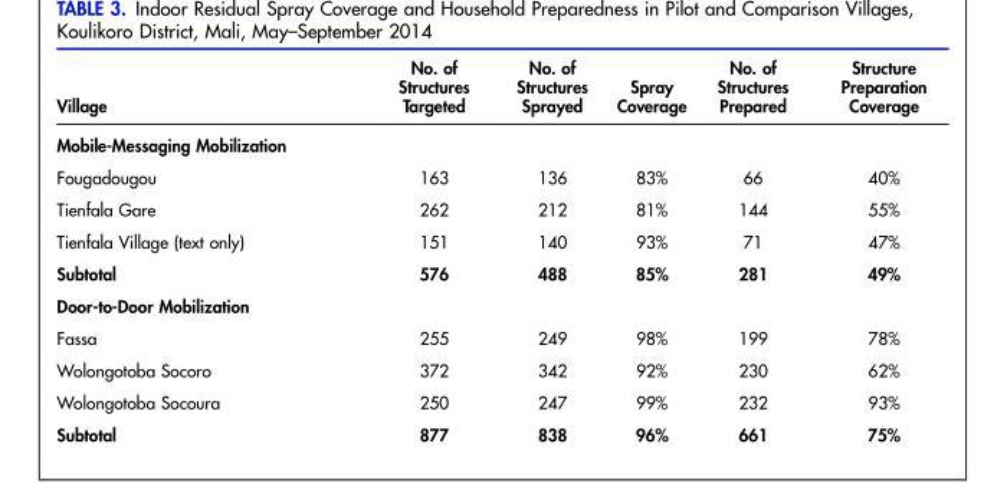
<table><thead><tr><td>Village</td><td>No. of Structures Targeted</td><td>No. of Structures Sprayed</td><td>Spray Coverage</td><td>No. of Structures Prepared</td><td>Structure Preparation Coverage</td></tr></thead><tbody><tr><td colspan="6">Mobile-Messaging Mobilization</td></tr><tr><td>Fougadougou</td><td>163</td><td>136</td><td>83%</td><td>66</td><td>40%</td></tr><tr><td>Tienfala Gare</td><td>262</td><td>212</td><td>81%</td><td>144</td><td>55%</td></tr><tr><td>Tienfala Village (text only)</td><td>151</td><td>140</td><td>93%</td><td>71</td><td>47%</td></tr><tr><td>Subtotal</td><td>576</td><td>488</td><td>85%</td><td>281</td><td>49%</td></tr><tr><td colspan="6">Door-to-Door Mobilization</td></tr><tr><td>Fassa</td><td>255</td><td>249</td><td>98%</td><td>199</td><td>78%</td></tr><tr><td>Wolongotoba Socoro</td><td>372</td><td>342</td><td>92%</td><td>230</td><td>62%</td></tr><tr><td>Wolongotoba Socoura</td><td>250</td><td>247</td><td>99%</td><td>232</td><td>93%</td></tr><tr><td>Subtotal</td><td>877</td><td>838</td><td>96%</td><td>661</td><td>75%</td></tr></tbody></table>